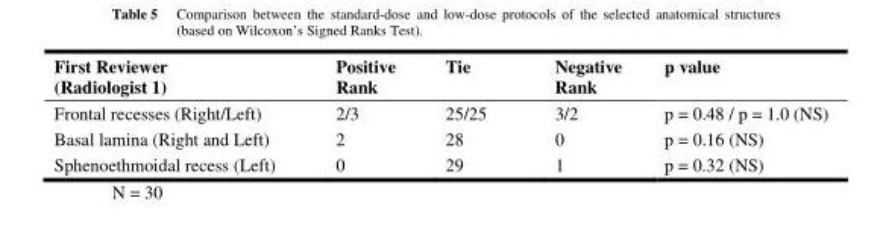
<table><thead><tr><td>First Reviewer (Radiologist 1)</td><td>Positive Rank</td><td>Tie</td><td>Negative Rank</td><td>p value</td></tr></thead><tbody><tr><td>Frontal recesses (Right/Left)</td><td>2/3</td><td>25/25</td><td>3/2</td><td>p = 0.48 / p = 1.0 (NS)</td></tr><tr><td>Basal lamina (Right and Left)</td><td>2</td><td>28</td><td>0</td><td>p = 0.16 (NS)</td></tr><tr><td>Sphenoethmoidal recess (Left)</td><td>0</td><td>29</td><td>1</td><td>p = 0.32 (NS)</td></tr></tbody></table>